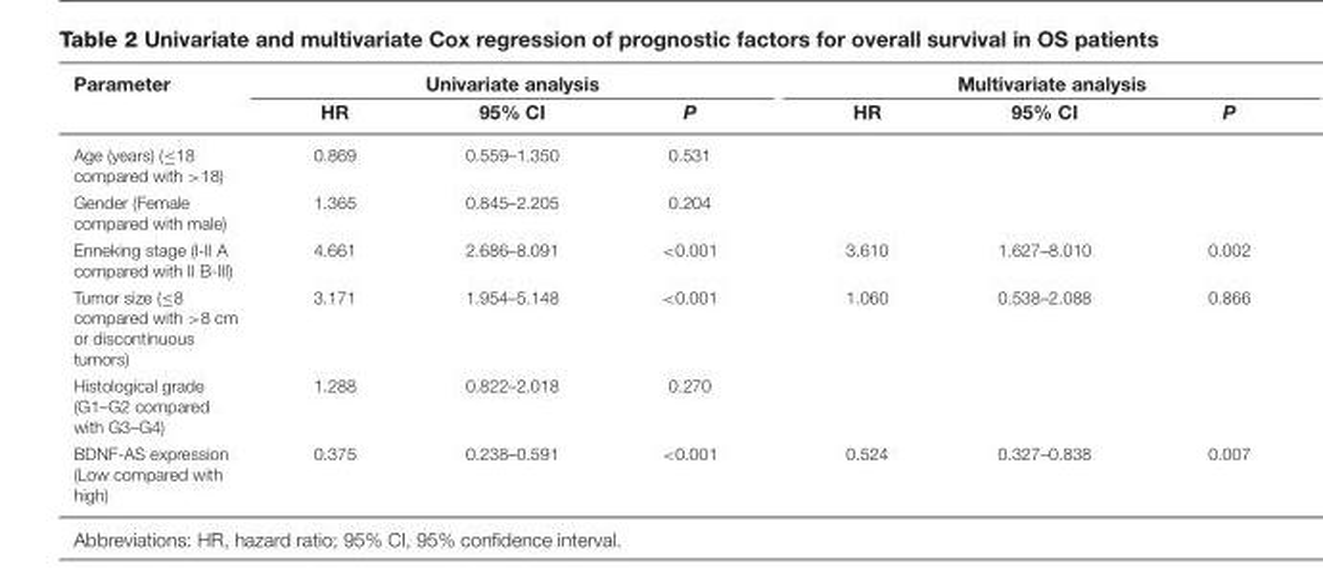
<table><thead><tr><td rowspan="2">Parameter</td><td colspan="3">Univariate analysis</td><td colspan="3">Multivariate analysis</td></tr><tr><td>HR</td><td>95% CI</td><td>P</td><td>HR</td><td>95% CI</td><td>P</td></tr></thead><tbody><tr><td>Age (years) (≤18 compared with &gt;18)</td><td>0.869</td><td>0.559–1.350</td><td>0.531</td><td></td><td></td><td></td></tr><tr><td>Gender (Female compared with male)</td><td>1.365</td><td>0.845–2.205</td><td>0.204</td><td></td><td></td><td></td></tr><tr><td>Enneking stage (I-II A compared with II B-III)</td><td>4.661</td><td>2.686–8.091</td><td>&lt;0.001</td><td>3.610</td><td>1.627–8.010</td><td>0.002</td></tr><tr><td>Tumor size (≤8 compared with &gt;8 cm or discontinuous tumors)</td><td>3.171</td><td>1.954–5.148</td><td>&lt;0.001</td><td>1.060</td><td>0.538–2.088</td><td>0.866</td></tr><tr><td>Histological grade (G1–G2 compared with G3–G4)</td><td>1.288</td><td>0.822–2.018</td><td>0.270</td><td></td><td></td><td></td></tr><tr><td>BDNF-AS expression (Low compared with high)</td><td>0.375</td><td>0.238–0.591</td><td>&lt;0.001</td><td>0.524</td><td>0.327–0.838</td><td>0.007</td></tr></tbody></table>